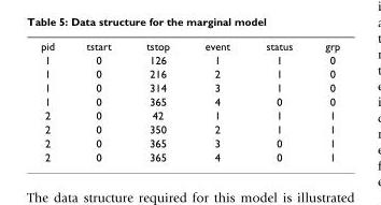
<table><tbody><tr><td>pid</td><td>tstart</td><td>tstop</td><td>event</td><td>status</td><td>grp</td></tr><tr><td>1</td><td>0</td><td>126</td><td>1</td><td>1</td><td>0</td></tr><tr><td>1</td><td>0</td><td>216</td><td>2</td><td>1</td><td>0</td></tr><tr><td>1</td><td>0</td><td>314</td><td>3</td><td>1</td><td>0</td></tr><tr><td>1</td><td>0</td><td>365</td><td>4</td><td>0</td><td>0</td></tr><tr><td>2</td><td>0</td><td>42</td><td>1</td><td>1</td><td>1</td></tr><tr><td>2</td><td>0</td><td>350</td><td>2</td><td>1</td><td>1</td></tr><tr><td>2</td><td>0</td><td>365</td><td>3</td><td>0</td><td>1</td></tr><tr><td>2</td><td>0</td><td>365</td><td>4</td><td>0</td><td>1</td></tr></tbody></table>